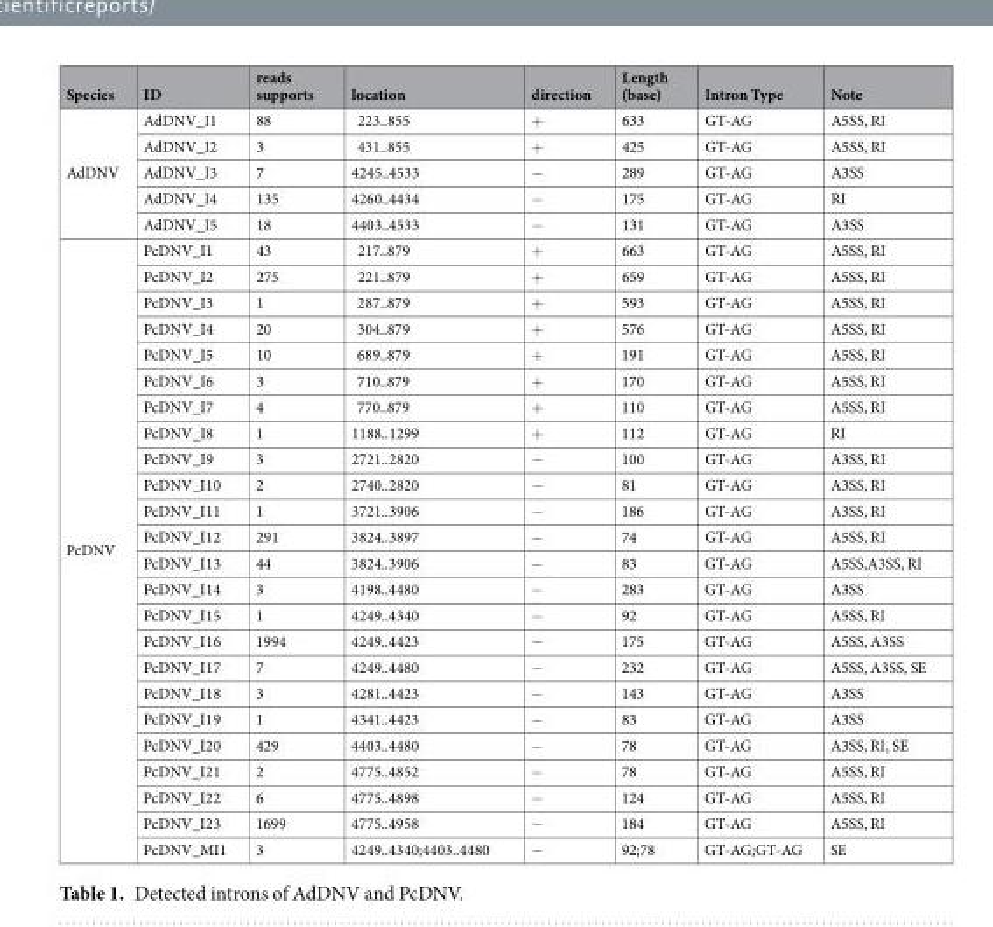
<table><thead><tr><td>Species</td><td>ID</td><td>reads supports</td><td>location</td><td>direction</td><td>Length (base)</td><td>Intron Type</td><td>Note</td></tr></thead><tbody><tr><td rowspan="5">AdDNV</td><td>AdDNV_I1</td><td>88</td><td>223..855</td><td>+</td><td>633</td><td>GT-AG</td><td>A5SS, RI</td></tr><tr><td>AdDNV_I2</td><td>3</td><td>431..855</td><td>+</td><td>425</td><td>GT-AG</td><td>A5SS, RI</td></tr><tr><td>AdDNV_I3</td><td>7</td><td>4245..4533</td><td>−</td><td>289</td><td>GT-AG</td><td>A3SS</td></tr><tr><td>AdDNV_I4</td><td>135</td><td>4260..4434</td><td>−</td><td>175</td><td>GT-AG</td><td>RI</td></tr><tr><td>AdDNV_I5</td><td>18</td><td>4403..4533</td><td>−</td><td>131</td><td>GT-AG</td><td>A3SS</td></tr><tr><td rowspan="24">PcDNV</td><td>PcDNV_I1</td><td>43</td><td>217..879</td><td>+</td><td>663</td><td>GT-AG</td><td>A5SS, RI</td></tr><tr><td>PcDNV_I2</td><td>275</td><td>221..879</td><td>+</td><td>659</td><td>GT-AG</td><td>A5SS, RI</td></tr><tr><td>PcDNV_I3</td><td>1</td><td>287..879</td><td>+</td><td>593</td><td>GT-AG</td><td>A5SS, RI</td></tr><tr><td>PcDNV_I4</td><td>20</td><td>304..879</td><td>+</td><td>576</td><td>GT-AG</td><td>A5SS, RI</td></tr><tr><td>PcDNV_I5</td><td>10</td><td>689..879</td><td>+</td><td>191</td><td>GT-AG</td><td>A5SS, RI</td></tr><tr><td>PcDNV_I6</td><td>3</td><td>710..879</td><td>+</td><td>170</td><td>GT-AG</td><td>A5SS, RI</td></tr><tr><td>PcDNV_I7</td><td>4</td><td>770..879</td><td>+</td><td>110</td><td>GT-AG</td><td>A5SS, RI</td></tr><tr><td>PcDNV_I8</td><td>1</td><td>1188..1299</td><td>+</td><td>112</td><td>GT-AG</td><td>RI</td></tr><tr><td>PcDNV_I9</td><td>3</td><td>2721..2820</td><td>−</td><td>100</td><td>GT-AG</td><td>A3SS, RI</td></tr><tr><td>PcDNV_I10</td><td>2</td><td>2740..2820</td><td>−</td><td>81</td><td>GT-AG</td><td>A3SS, RI</td></tr><tr><td>PcDNV_I11</td><td>1</td><td>3721..3906</td><td>−</td><td>186</td><td>GT-AG</td><td>A3SS, RI</td></tr><tr><td>PcDNV_I12</td><td>291</td><td>3824..3897</td><td>−</td><td>74</td><td>GT-AG</td><td>A5SS, RI</td></tr><tr><td>PcDNV_I13</td><td>44</td><td>3824..3906</td><td>−</td><td>83</td><td>GT-AG</td><td>A5SS,A3SS, RI</td></tr><tr><td>PcDNV_I14</td><td>3</td><td>4198..4480</td><td>−</td><td>283</td><td>GT-AG</td><td>A3SS</td></tr><tr><td>PcDNV_I15</td><td>1</td><td>4249..4340</td><td>−</td><td>92</td><td>GT-AG</td><td>A5SS, RI</td></tr><tr><td>PcDNV_I16</td><td>1994</td><td>4249..4423</td><td>−</td><td>175</td><td>GT-AG</td><td>A5SS, A3SS</td></tr><tr><td>PcDNV_I17</td><td>7</td><td>4249..4480</td><td>−</td><td>232</td><td>GT-AG</td><td>A5SS, A3SS, SE</td></tr><tr><td>PcDNV_I18</td><td>3</td><td>4281..4423</td><td>−</td><td>143</td><td>GT-AG</td><td>A3SS</td></tr><tr><td>PcDNV_I19</td><td>1</td><td>4341..4423</td><td>−</td><td>83</td><td>GT-AG</td><td>A3SS</td></tr><tr><td>PcDNV_I20</td><td>429</td><td>4403..4480</td><td>−</td><td>78</td><td>GT-AG</td><td>A3SS, RI, SE</td></tr><tr><td>PcDNV_I21</td><td>2</td><td>4775..4852</td><td>−</td><td>78</td><td>GT-AG</td><td>A5SS, RI</td></tr><tr><td>PcDNV_I22</td><td>6</td><td>4775..4898</td><td>−</td><td>124</td><td>GT-AG</td><td>A5SS, RI</td></tr><tr><td>PcDNV_I23</td><td>1699</td><td>4775..4958</td><td>−</td><td>184</td><td>GT-AG</td><td>A5SS, RI</td></tr><tr><td>PcDNV_MI1</td><td>3</td><td>4249..4340;4403..4480</td><td>−</td><td>92;78</td><td>GT-AG;GT-AG</td><td>SE</td></tr></tbody></table>